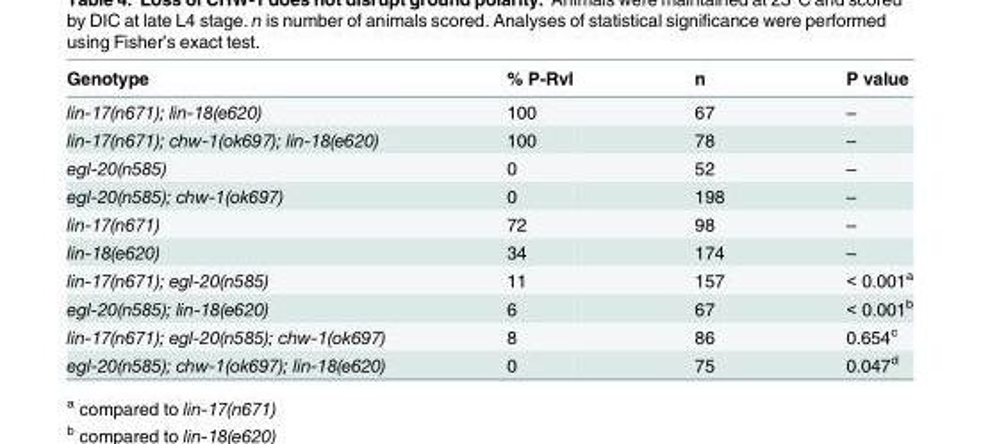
<table><thead><tr><td>Genotype</td><td>% P-Rvl</td><td>n</td><td>P value</td></tr></thead><tbody><tr><td>lin-17(n671); lin-18(e620)</td><td>100</td><td>67</td><td>–</td></tr><tr><td>lin-17(n671); chw-1(ok697); lin-18(e620)</td><td>100</td><td>78</td><td>–</td></tr><tr><td>egl-20(n585)</td><td>0</td><td>52</td><td>–</td></tr><tr><td>egl-20(n585); chw-1(ok697)</td><td>0</td><td>198</td><td>–</td></tr><tr><td>lin-17(n671)</td><td>72</td><td>98</td><td>–</td></tr><tr><td>lin-18(e620)</td><td>34</td><td>174</td><td>–</td></tr><tr><td>lin-17(n671); egl-20(n585)</td><td>11</td><td>157</td><td>&lt; 0.001<sup>a</sup></td></tr><tr><td>egl-20(n585); lin-18(e620)</td><td>6</td><td>67</td><td>&lt; 0.001<sup>b</sup></td></tr><tr><td>lin-17(n671); egl-20(n585); chw-1(ok697)</td><td>8</td><td>86</td><td>0.654<sup>c</sup></td></tr><tr><td>egl-20(n585); chw-1(ok697); lin-18(e620)</td><td>0</td><td>75</td><td>0.047<sup>d</sup></td></tr></tbody></table>